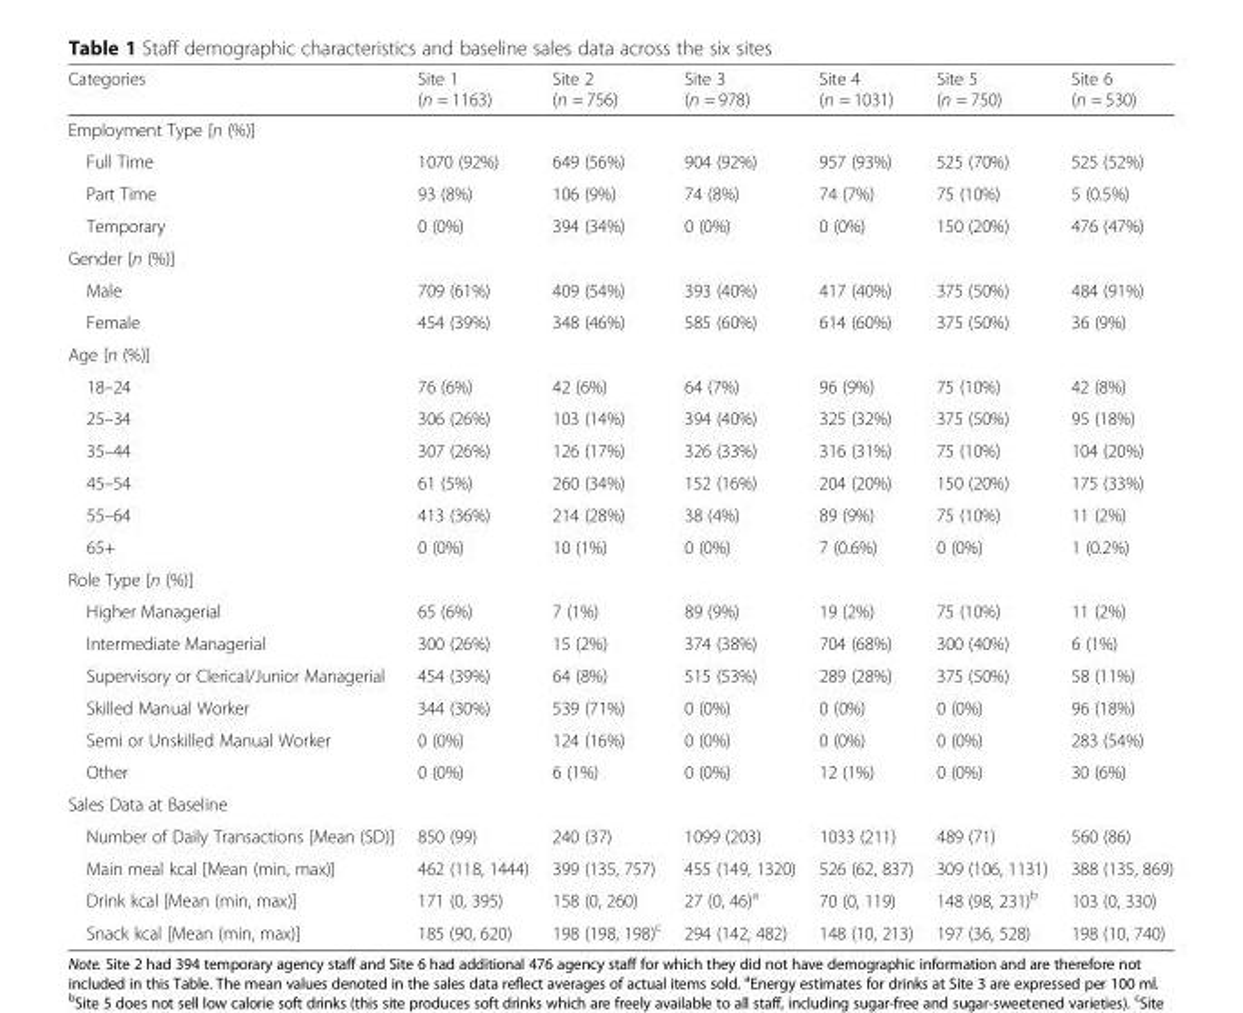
<table><thead><tr><td>Categories</td><td>Site 1 (n = 1163)</td><td>Site 2 (n = 756)</td><td>Site 3 (n = 978)</td><td>Site 4 (n = 1031)</td><td>Site 5 (n = 750)</td><td>Site 6 (n = 530)</td></tr></thead><tbody><tr><td colspan="7">Employment Type [n (%)]</td></tr><tr><td>Full Time</td><td>1070 (92%)</td><td>649 (56%)</td><td>904 (92%)</td><td>957 (93%)</td><td>525 (70%)</td><td>525 (52%)</td></tr><tr><td>Part Time</td><td>93 (8%)</td><td>106 (9%)</td><td>74 (8%)</td><td>74 (7%)</td><td>75 (10%)</td><td>5 (0.5%)</td></tr><tr><td>Temporary</td><td>0 (0%)</td><td>394 (34%)</td><td>0 (0%)</td><td>0 (0%)</td><td>150 (20%)</td><td>476 (47%)</td></tr><tr><td colspan="7">Gender [n (%)]</td></tr><tr><td>Male</td><td>709 (61%)</td><td>409 (54%)</td><td>393 (40%)</td><td>417 (40%)</td><td>375 (50%)</td><td>484 (91%)</td></tr><tr><td>Female</td><td>454 (39%)</td><td>348 (46%)</td><td>585 (60%)</td><td>614 (60%)</td><td>375 (50%)</td><td>36 (9%)</td></tr><tr><td colspan="7">Age [n (%)]</td></tr><tr><td>18–24</td><td>76 (6%)</td><td>42 (6%)</td><td>64 (7%)</td><td>96 (9%)</td><td>75 (10%)</td><td>42 (8%)</td></tr><tr><td>25–34</td><td>306 (26%)</td><td>103 (14%)</td><td>394 (40%)</td><td>325 (32%)</td><td>375 (50%)</td><td>95 (18%)</td></tr><tr><td>35–44</td><td>307 (26%)</td><td>126 (17%)</td><td>326 (33%)</td><td>316 (31%)</td><td>75 (10%)</td><td>104 (20%)</td></tr><tr><td>45–54</td><td>61 (5%)</td><td>260 (34%)</td><td>152 (16%)</td><td>204 (20%)</td><td>150 (20%)</td><td>175 (33%)</td></tr><tr><td>55–64</td><td>413 (36%)</td><td>214 (28%)</td><td>38 (4%)</td><td>89 (9%)</td><td>75 (10%)</td><td>11 (2%)</td></tr><tr><td>65+</td><td>0 (0%)</td><td>10 (1%)</td><td>0 (0%)</td><td>7 (0.6%)</td><td>0 (0%)</td><td>1 (0.2%)</td></tr><tr><td colspan="7">Role Type [n (%)]</td></tr><tr><td>Higher Managerial</td><td>65 (6%)</td><td>7 (1%)</td><td>89 (9%)</td><td>19 (2%)</td><td>75 (10%)</td><td>11 (2%)</td></tr><tr><td>Intermediate Managerial</td><td>300 (26%)</td><td>15 (2%)</td><td>374 (38%)</td><td>704 (68%)</td><td>300 (40%)</td><td>6 (1%)</td></tr><tr><td>Supervisory or Clerical/Junior Managerial</td><td>454 (39%)</td><td>64 (8%)</td><td>515 (53%)</td><td>289 (28%)</td><td>375 (50%)</td><td>58 (11%)</td></tr><tr><td>Skilled Manual Worker</td><td>344 (30%)</td><td>539 (71%)</td><td>0 (0%)</td><td>0 (0%)</td><td>0 (0%)</td><td>96 (18%)</td></tr><tr><td>Semi or Unskilled Manual Worker</td><td>0 (0%)</td><td>124 (16%)</td><td>0 (0%)</td><td>0 (0%)</td><td>0 (0%)</td><td>283 (54%)</td></tr><tr><td>Other</td><td>0 (0%)</td><td>6 (1%)</td><td>0 (0%)</td><td>12 (1%)</td><td>0 (0%)</td><td>30 (6%)</td></tr><tr><td colspan="7">Sales Data at Baseline</td></tr><tr><td>Number of Daily Transactions [Mean (SD)]</td><td>850 (99)</td><td>240 (37)</td><td>1099 (203)</td><td>1033 (211)</td><td>489 (71)</td><td>560 (86)</td></tr><tr><td>Main meal kcal [Mean (min, max)]</td><td>462 (118, 1444)</td><td>399 (135, 757)</td><td>455 (149, 1320)</td><td>526 (62, 837)</td><td>309 (106, 1131)</td><td>388 (135, 869)</td></tr><tr><td>Drink kcal [Mean (min, max)]</td><td>171 (0, 395)</td><td>158 (0, 260)</td><td>27 (0, 46)<sup>a</sup></td><td>70 (0, 119)</td><td>148 (98, 231)<sup>b</sup></td><td>103 (0, 330)</td></tr><tr><td>Snack kcal [Mean (min, max)]</td><td>185 (90, 620)</td><td>198 (198, 198)<sup>c</sup></td><td>294 (142, 482)</td><td>148 (10, 213)</td><td>197 (36, 528)</td><td>198 (10, 740)</td></tr></tbody></table>